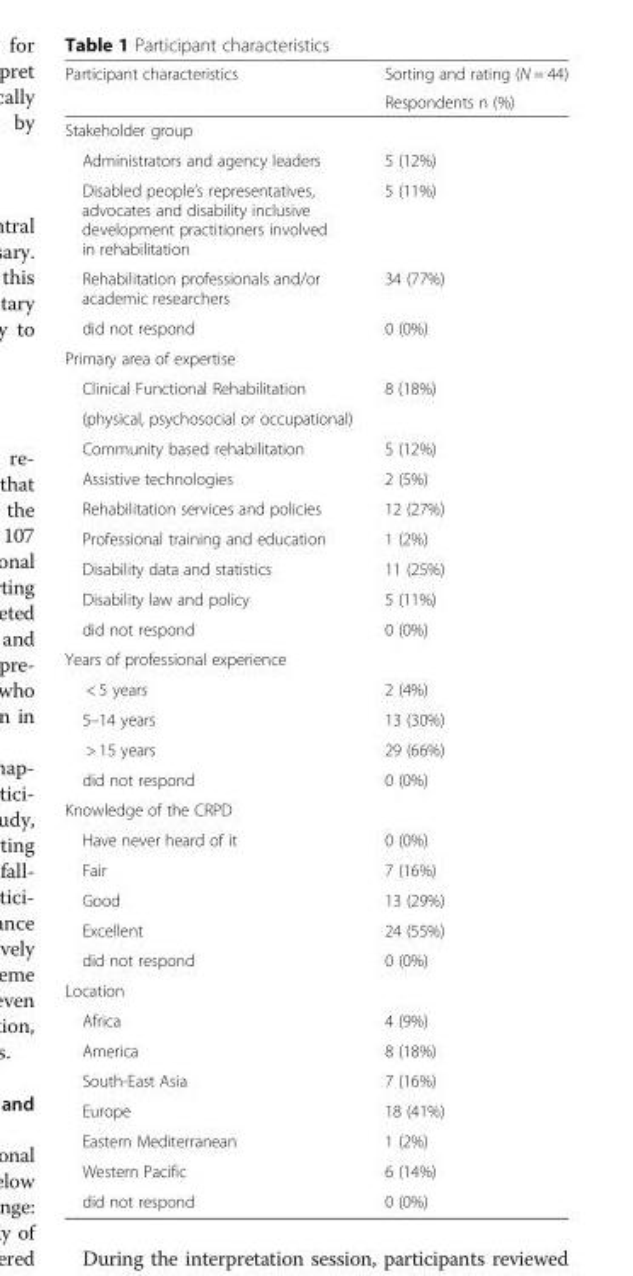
<table><thead><tr><td rowspan="2">Participant characteristics</td><td rowspan="2">Sorting and rating (N = 44) Respondents n (%)</td></tr><tr></tr></thead><tbody><tr><td colspan="2">Stakeholder group</td></tr><tr><td>Administrators and agency leaders</td><td>5 (12%)</td></tr><tr><td>Disabled people’s representatives, advocates and disability inclusive development practitioners involved in rehabilitation</td><td>5 (11%)</td></tr><tr><td>Rehabilitation professionals and/or academic researchers</td><td>34 (77%)</td></tr><tr><td>did not respond</td><td>0 (0%)</td></tr><tr><td colspan="2">Primary area of expertise</td></tr><tr><td>Clinical Functional Rehabilitation</td><td>8 (18%)</td></tr><tr><td colspan="2">(physical, psychosocial or occupational)</td></tr><tr><td>Community based rehabilitation</td><td>5 (12%)</td></tr><tr><td>Assistive technologies</td><td>2 (5%)</td></tr><tr><td>Rehabilitation services and policies</td><td>12 (27%)</td></tr><tr><td>Professional training and education</td><td>1 (2%)</td></tr><tr><td>Disability data and statistics</td><td>11 (25%)</td></tr><tr><td>Disability law and policy</td><td>5 (11%)</td></tr><tr><td>did not respond</td><td>0 (0%)</td></tr><tr><td colspan="2">Years of professional experience</td></tr><tr><td>&lt; 5 years</td><td>2 (4%)</td></tr><tr><td>5–14 years</td><td>13 (30%)</td></tr><tr><td>&gt; 15 years</td><td>29 (66%)</td></tr><tr><td>did not respond</td><td>0 (0%)</td></tr><tr><td colspan="2">Knowledge of the CRPD</td></tr><tr><td>Have never heard of it</td><td>0 (0%)</td></tr><tr><td>Fair</td><td>7 (16%)</td></tr><tr><td>Good</td><td>13 (29%)</td></tr><tr><td>Excellent</td><td>24 (55%)</td></tr><tr><td>did not respond</td><td>0 (0%)</td></tr><tr><td colspan="2">Location</td></tr><tr><td>Africa</td><td>4 (9%)</td></tr><tr><td>America</td><td>8 (18%)</td></tr><tr><td>South-East Asia</td><td>7 (16%)</td></tr><tr><td>Europe</td><td>18 (41%)</td></tr><tr><td>Eastern Mediterranean</td><td>1 (2%)</td></tr><tr><td>Western Pacific</td><td>6 (14%)</td></tr><tr><td>did not respond</td><td>0 (0%)</td></tr></tbody></table>